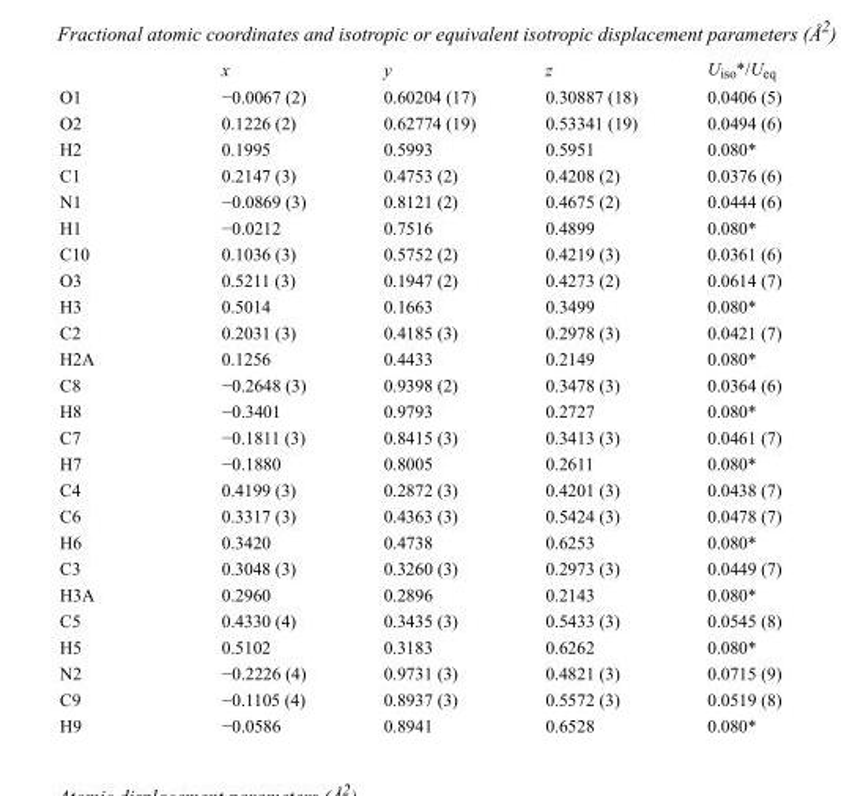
<table><thead><tr><td></td><td>x</td><td>y</td><td>z</td><td>U<sub>iso</sub>*/U<sub>eq</sub></td></tr></thead><tbody><tr><td>O1</td><td>−0.0067 (2)</td><td>0.60204 (17)</td><td>0.30887 (18)</td><td>0.0406 (5)</td></tr><tr><td>O2</td><td>0.1226 (2)</td><td>0.62774 (19)</td><td>0.53341 (19)</td><td>0.0494 (6)</td></tr><tr><td>H2</td><td>0.1995</td><td>0.5993</td><td>0.5951</td><td>0.080*</td></tr><tr><td>C1</td><td>0.2147 (3)</td><td>0.4753 (2)</td><td>0.4208 (2)</td><td>0.0376 (6)</td></tr><tr><td>N1</td><td>−0.0869 (3)</td><td>0.8121 (2)</td><td>0.4675 (2)</td><td>0.0444 (6)</td></tr><tr><td>H1</td><td>−0.0212</td><td>0.7516</td><td>0.4899</td><td>0.080*</td></tr><tr><td>C10</td><td>0.1036 (3)</td><td>0.5752 (2)</td><td>0.4219 (3)</td><td>0.0361 (6)</td></tr><tr><td>O3</td><td>0.5211 (3)</td><td>0.1947 (2)</td><td>0.4273 (2)</td><td>0.0614 (7)</td></tr><tr><td>H3</td><td>0.5014</td><td>0.1663</td><td>0.3499</td><td>0.080*</td></tr><tr><td>C2</td><td>0.2031 (3)</td><td>0.4185 (3)</td><td>0.2978 (3)</td><td>0.0421 (7)</td></tr><tr><td>H2A</td><td>0.1256</td><td>0.4433</td><td>0.2149</td><td>0.080*</td></tr><tr><td>C8</td><td>−0.2648 (3)</td><td>0.9398 (2)</td><td>0.3478 (3)</td><td>0.0364 (6)</td></tr><tr><td>H8</td><td>−0.3401</td><td>0.9793</td><td>0.2727</td><td>0.080*</td></tr><tr><td>C7</td><td>−0.1811 (3)</td><td>0.8415 (3)</td><td>0.3413 (3)</td><td>0.0461 (7)</td></tr><tr><td>H7</td><td>−0.1880</td><td>0.8005</td><td>0.2611</td><td>0.080*</td></tr><tr><td>C4</td><td>0.4199 (3)</td><td>0.2872 (3)</td><td>0.4201 (3)</td><td>0.0438 (7)</td></tr><tr><td>C6</td><td>0.3317 (3)</td><td>0.4363 (3)</td><td>0.5424 (3)</td><td>0.0478 (7)</td></tr><tr><td>H6</td><td>0.3420</td><td>0.4738</td><td>0.6253</td><td>0.080*</td></tr><tr><td>C3</td><td>0.3048 (3)</td><td>0.3260 (3)</td><td>0.2973 (3)</td><td>0.0449 (7)</td></tr><tr><td>H3A</td><td>0.2960</td><td>0.2896</td><td>0.2143</td><td>0.080*</td></tr><tr><td>C5</td><td>0.4330 (4)</td><td>0.3435 (3)</td><td>0.5433 (3)</td><td>0.0545 (8)</td></tr><tr><td>H5</td><td>0.5102</td><td>0.3183</td><td>0.6262</td><td>0.080*</td></tr><tr><td>N2</td><td>−0.2226 (4)</td><td>0.9731 (3)</td><td>0.4821 (3)</td><td>0.0715 (9)</td></tr><tr><td>C9</td><td>−0.1105 (4)</td><td>0.8937 (3)</td><td>0.5572 (3)</td><td>0.0519 (8)</td></tr><tr><td>H9</td><td>−0.0586</td><td>0.8941</td><td>0.6528</td><td>0.080*</td></tr></tbody></table>